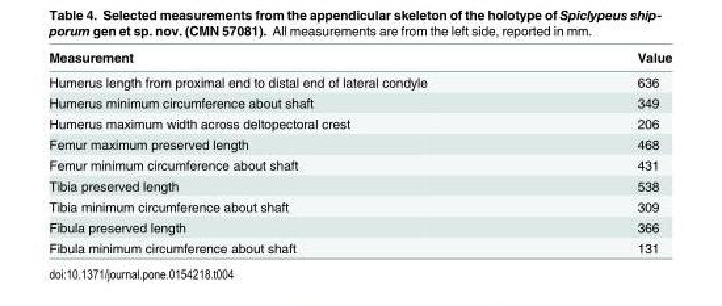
<table><thead><tr><td>Measurement</td><td>Value</td></tr></thead><tbody><tr><td>Humerus length from proximal end to distal end of lateral condyle</td><td>636</td></tr><tr><td>Humerus minimum circumference about shaft</td><td>349</td></tr><tr><td>Humerus maximum width across deltopectoral crest</td><td>206</td></tr><tr><td>Femur maximum preserved length</td><td>468</td></tr><tr><td>Femur minimum circumference about shaft</td><td>431</td></tr><tr><td>Tibia preserved length</td><td>538</td></tr><tr><td>Tibia minimum circumference about shaft</td><td>309</td></tr><tr><td>Fibula preserved length</td><td>366</td></tr><tr><td>Fibula minimum circumference about shaft</td><td>131</td></tr></tbody></table>